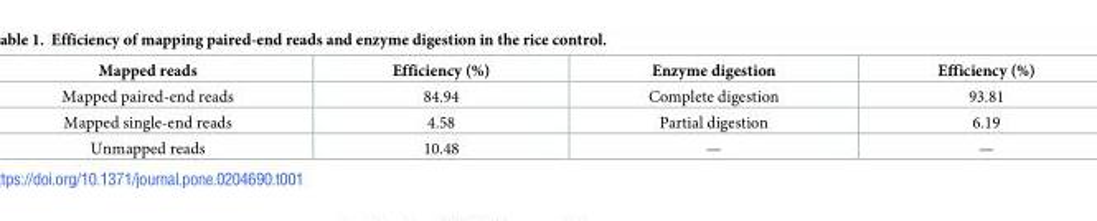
<table><thead><tr><td>Mapped reads</td><td>Efficiency (%)</td><td>Enzyme digestion</td><td>Efficiency (%)</td></tr></thead><tbody><tr><td>Mapped paired-end reads</td><td>84.94</td><td>Complete digestion</td><td>93.81</td></tr><tr><td>Mapped single-end reads</td><td>4.58</td><td>Partial digestion</td><td>6.19</td></tr><tr><td>Unmapped reads</td><td>10.48</td><td>—</td><td>—</td></tr></tbody></table>